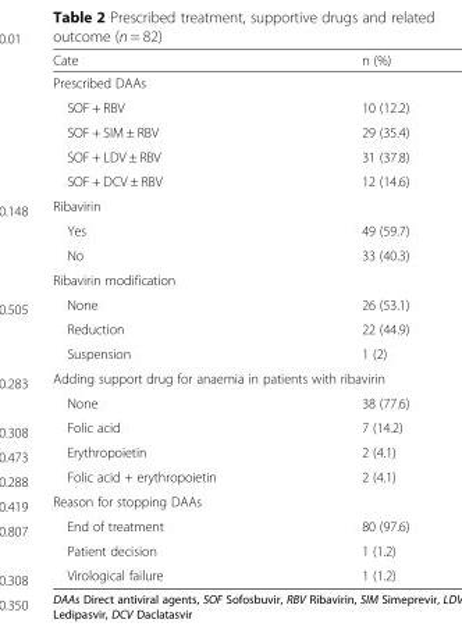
<table><thead><tr><td>Cate</td><td>n (%)</td></tr></thead><tbody><tr><td colspan="2">Prescribed DAAs</td></tr><tr><td>SOF + RBV</td><td>10 (12.2)</td></tr><tr><td>SOF + SIM ± RBV</td><td>29 (35.4)</td></tr><tr><td>SOF + LDV ± RBV</td><td>31 (37.8)</td></tr><tr><td>SOF + DCV ± RBV</td><td>12 (14.6)</td></tr><tr><td colspan="2">Ribavirin</td></tr><tr><td>Yes</td><td>49 (59.7)</td></tr><tr><td>No</td><td>33 (40.3)</td></tr><tr><td colspan="2">Ribavirin modification</td></tr><tr><td>None</td><td>26 (53.1)</td></tr><tr><td>Reduction</td><td>22 (44.9)</td></tr><tr><td>Suspension</td><td>1 (2)</td></tr><tr><td colspan="2">Adding support drug for anaemia in patients with ribavirin</td></tr><tr><td>None</td><td>38 (77.6)</td></tr><tr><td>Folic acid</td><td>7 (14.2)</td></tr><tr><td>Erythropoietin</td><td>2 (4.1)</td></tr><tr><td>Folic acid + erythropoietin</td><td>2 (4.1)</td></tr><tr><td colspan="2">Reason for stopping DAAs</td></tr><tr><td>End of treatment</td><td>80 (97.6)</td></tr><tr><td>Patient decision</td><td>1 (1.2)</td></tr><tr><td>Virological failure</td><td>1 (1.2)</td></tr></tbody></table>